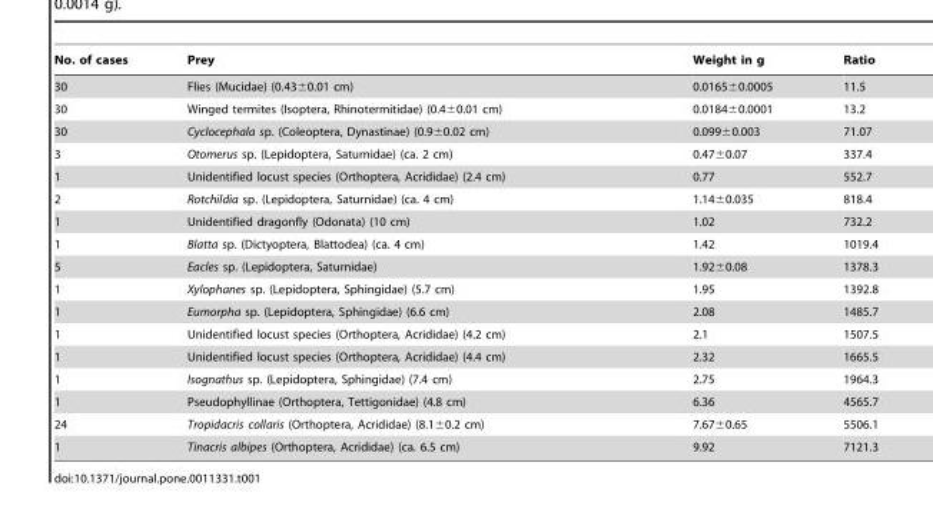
<table><thead><tr><td>No. of cases</td><td>Prey</td><td>Weight in g</td><td>Ratio</td></tr></thead><tbody><tr><td>30</td><td>Flies (Mucidae) (0.43±0.01 cm)</td><td>0.0165±0.0005</td><td>11.5</td></tr><tr><td>30</td><td>Winged termites (Isoptera, Rhinotermitidae) (0.4±0.01 cm)</td><td>0.0184±0.0001</td><td>13.2</td></tr><tr><td>30</td><td>Cyclocephala sp. (Coleoptera, Dynastinae) (0.9±0.02 cm)</td><td>0.099±0.003</td><td>71.07</td></tr><tr><td>3</td><td>Otomerus sp. (Lepidoptera, Saturnidae) (ca. 2 cm)</td><td>0.47±0.07</td><td>337.4</td></tr><tr><td>1</td><td>Unidentified locust species (Orthoptera, Acrididae) (2.4 cm)</td><td>0.77</td><td>552.7</td></tr><tr><td>2</td><td>Rotchildia sp. (Lepidoptera, Saturnidae) (ca. 4 cm)</td><td>1.14±0.035</td><td>818.4</td></tr><tr><td>1</td><td>Unidentified dragonfly (Odonata) (10 cm)</td><td>1.02</td><td>732.2</td></tr><tr><td>1</td><td>Blatta sp. (Dictyoptera, Blattodea) (ca. 4 cm)</td><td>1.42</td><td>1019.4</td></tr><tr><td>5</td><td>Eacles sp. (Lepidoptera, Saturnidae)</td><td>1.92±0.08</td><td>1378.3</td></tr><tr><td>1</td><td>Xylophanes sp. (Lepidoptera, Sphingidae) (5.7 cm)</td><td>1.95</td><td>1392.8</td></tr><tr><td>1</td><td>Eumorpha sp. (Lepidoptera, Sphingidae) (6.6 cm)</td><td>2.08</td><td>1485.7</td></tr><tr><td>1</td><td>Unidentified locust species (Orthoptera, Acrididae) (4.2 cm)</td><td>2.1</td><td>1507.5</td></tr><tr><td>1</td><td>Unidentified locust species (Orthoptera, Acrididae) (4.4 cm)</td><td>2.32</td><td>1665.5</td></tr><tr><td>1</td><td>Isognathus sp. (Lepidoptera, Sphingidae) (7.4 cm)</td><td>2.75</td><td>1964.3</td></tr><tr><td>1</td><td>Pseudophyllinae (Orthoptera, Tettigonidae) (4.8 cm)</td><td>6.36</td><td>4565.7</td></tr><tr><td>24</td><td>Tropidacris collaris (Orthoptera, Acrididae) (8.1±0.2 cm)</td><td>7.67±0.65</td><td>5506.1</td></tr><tr><td>1</td><td>Tinacris albipes (Orthoptera, Acrididae) (ca. 6.5 cm)</td><td>9.92</td><td>7121.3</td></tr></tbody></table>